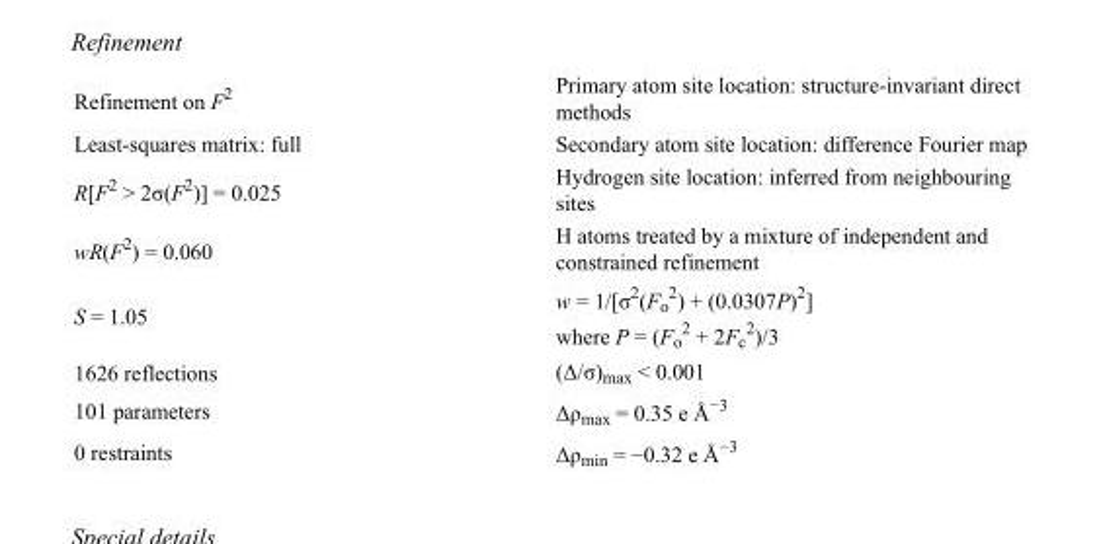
<table><tbody><tr><td>Refinement on F<sup>2</sup></td><td>Primary atom site location: structure-invariant direct methods</td></tr><tr><td>Least-squares matrix: full</td><td>Secondary atom site location: difference Fourier map</td></tr><tr><td>R[F<sup>2</sup> &gt; 2σ(F<sup>2</sup>)] = 0.025</td><td>Hydrogen site location: inferred from neighbouring sites</td></tr><tr><td>wR(F<sup>2</sup>) = 0.060</td><td>H atoms treated by a mixture of independent and constrained refinement</td></tr><tr><td>S = 1.05</td><td>w = 1/[σ<sup>2</sup>(F<sub>o</sub> <sup>2</sup>) + (0.0307P)<sup>2</sup>] where P = (F<sub>o</sub> <sup>2</sup> + 2F<sub>c</sub> <sup>2</sup>)/3</td></tr><tr><td>1626 reflections</td><td>(Δ/σ)<sub>max</sub> &lt; 0.001</td></tr><tr><td>101 parameters</td><td>Δρ<sub>max</sub> = 0.35 e Å<sup>−3</sup></td></tr><tr><td>0 restraints</td><td>Δρ<sub>min</sub> = −0.32 e Å<sup>−3</sup></td></tr></tbody></table>